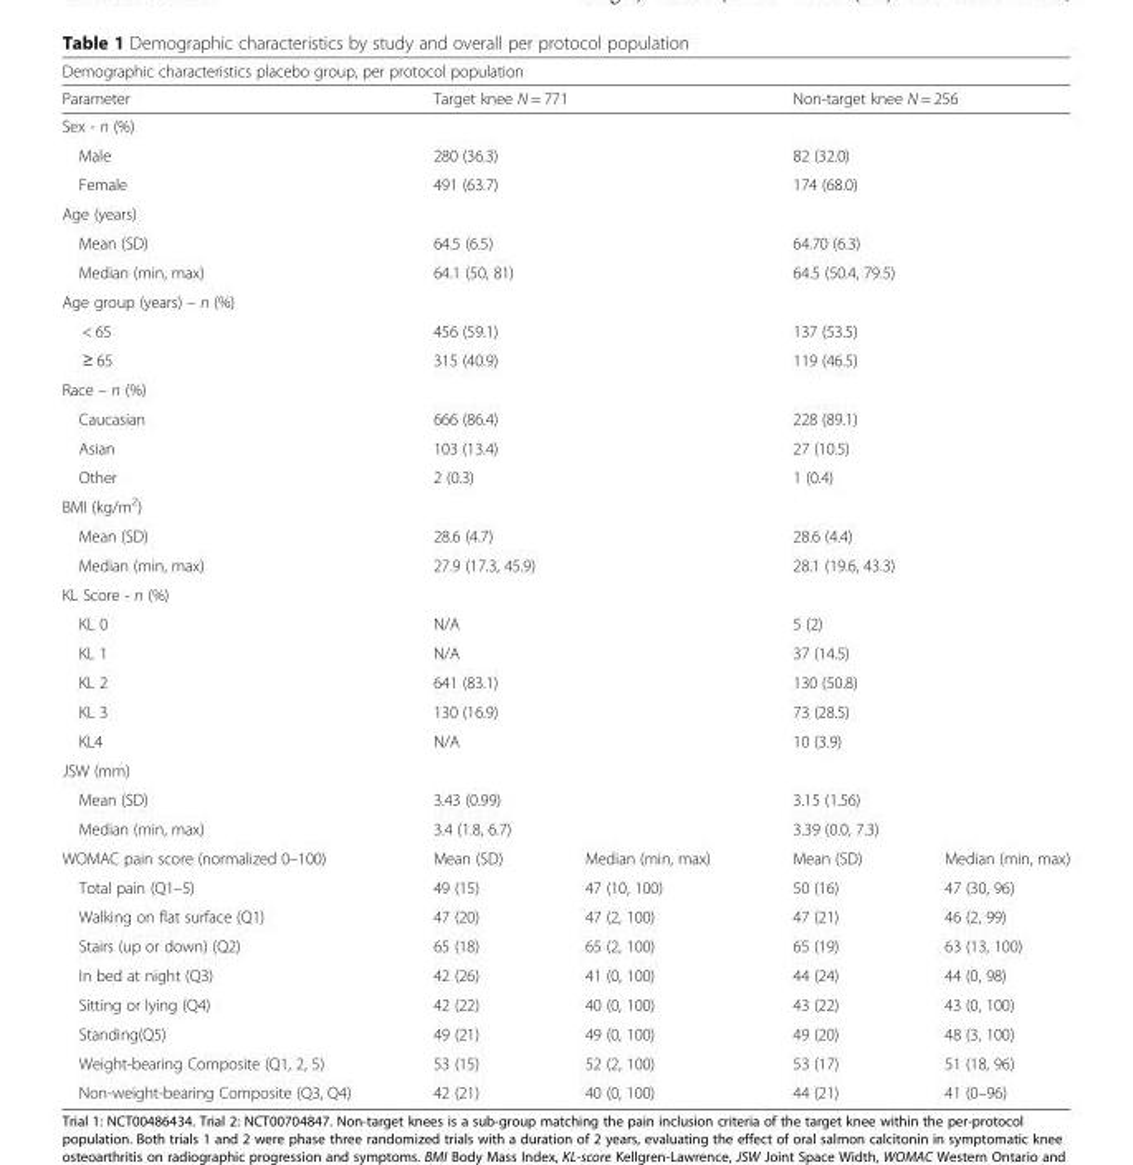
<table><thead><tr><td colspan="5">Demographic characteristics placebo group, per protocol population</td></tr><tr><td>Parameter</td><td colspan="2">Target knee N = 771</td><td colspan="2">Non-target knee N = 256</td></tr></thead><tbody><tr><td colspan="5">Sex - n (%)</td></tr><tr><td>Male</td><td colspan="2">280 (36.3)</td><td colspan="2">82 (32.0)</td></tr><tr><td>Female</td><td colspan="2">491 (63.7)</td><td colspan="2">174 (68.0)</td></tr><tr><td colspan="5">Age (years)</td></tr><tr><td>Mean (SD)</td><td colspan="2">64.5 (6.5)</td><td colspan="2">64.70 (6.3)</td></tr><tr><td>Median (min, max)</td><td colspan="2">64.1 (50, 81)</td><td colspan="2">64.5 (50.4, 79.5)</td></tr><tr><td colspan="5">Age group (years) – n (%)</td></tr><tr><td>&lt; 65</td><td colspan="2">456 (59.1)</td><td colspan="2">137 (53.5)</td></tr><tr><td>≥ 65</td><td colspan="2">315 (40.9)</td><td colspan="2">119 (46.5)</td></tr><tr><td colspan="5">Race – n (%)</td></tr><tr><td>Caucasian</td><td colspan="2">666 (86.4)</td><td colspan="2">228 (89.1)</td></tr><tr><td>Asian</td><td colspan="2">103 (13.4)</td><td colspan="2">27 (10.5)</td></tr><tr><td>Other</td><td colspan="2">2 (0.3)</td><td colspan="2">1 (0.4)</td></tr><tr><td colspan="5">BMI (kg/m<sup>2</sup>)</td></tr><tr><td>Mean (SD)</td><td colspan="2">28.6 (4.7)</td><td colspan="2">28.6 (4.4)</td></tr><tr><td>Median (min, max)</td><td colspan="2">27.9 (17.3, 45.9)</td><td colspan="2">28.1 (19.6, 43.3)</td></tr><tr><td colspan="5">KL Score - n (%)</td></tr><tr><td>KL 0</td><td colspan="2">N/A</td><td colspan="2">5 (2)</td></tr><tr><td>KL 1</td><td colspan="2">N/A</td><td colspan="2">37 (14.5)</td></tr><tr><td>KL 2</td><td colspan="2">641 (83.1)</td><td colspan="2">130 (50.8)</td></tr><tr><td>KL 3</td><td colspan="2">130 (16.9)</td><td colspan="2">73 (28.5)</td></tr><tr><td>KL4</td><td colspan="2">N/A</td><td colspan="2">10 (3.9)</td></tr><tr><td colspan="5">JSW (mm)</td></tr><tr><td>Mean (SD)</td><td colspan="2">3.43 (0.99)</td><td colspan="2">3.15 (1.56)</td></tr><tr><td>Median (min, max)</td><td colspan="2">3.4 (1.8, 6.7)</td><td colspan="2">3.39 (0.0, 7.3)</td></tr><tr><td>WOMAC pain score (normalized 0–100)</td><td>Mean (SD)</td><td>Median (min, max)</td><td>Mean (SD)</td><td>Median (min, max)</td></tr><tr><td>Total pain (Q1–5)</td><td>49 (15)</td><td>47 (10, 100)</td><td>50 (16)</td><td>47 (30, 96)</td></tr><tr><td>Walking on flat surface (Q1)</td><td>47 (20)</td><td>47 (2, 100)</td><td>47 (21)</td><td>46 (2, 99)</td></tr><tr><td>Stairs (up or down) (Q2)</td><td>65 (18)</td><td>65 (2, 100)</td><td>65 (19)</td><td>63 (13, 100)</td></tr><tr><td>In bed at night (Q3)</td><td>42 (26)</td><td>41 (0, 100)</td><td>44 (24)</td><td>44 (0, 98)</td></tr><tr><td>Sitting or lying (Q4)</td><td>42 (22)</td><td>40 (0, 100)</td><td>43 (22)</td><td>43 (0, 100)</td></tr><tr><td>Standing(Q5)</td><td>49 (21)</td><td>49 (0, 100)</td><td>49 (20)</td><td>48 (3, 100)</td></tr><tr><td>Weight-bearing Composite (Q1, 2, 5)</td><td>53 (15)</td><td>52 (2, 100)</td><td>53 (17)</td><td>51 (18, 96)</td></tr><tr><td>Non-weight-bearing Composite (Q3, Q4)</td><td>42 (21)</td><td>40 (0, 100)</td><td>44 (21)</td><td>41 (0–96)</td></tr></tbody></table>